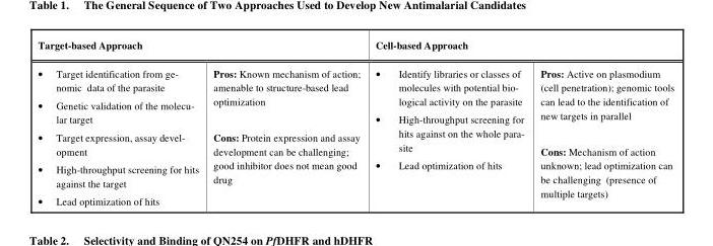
<table><thead><tr><td colspan="2">Target-based Approach</td><td colspan="2">Cell-based Approach</td></tr><tr><td>• Target identification from ge- nomic data of the parasite • Genetic validation of the molecu- lar target • Target expression, assay devel- opment • High-throughput screening for hits against the target • Lead optimization of hits</td><td>Pros: Known mechanism of action; amenable to structure-based lead optimization Cons: Protein expression and assay development can be challenging; good inhibitor does not mean good drug</td><td>• Identify libraries or classes of molecules with potential bio- logical activity on the parasite • High-throughput screening for hits against on the whole para- site • Lead optimization of hits</td><td>Pros: Active on plasmodium (cell penetration); genomic tools can lead to the identification of new targets in parallel Cons: Mechanism of action unknown; lead optimization can be challenging (presence of multiple targets)</td></tr></thead><tbody></tbody></table>